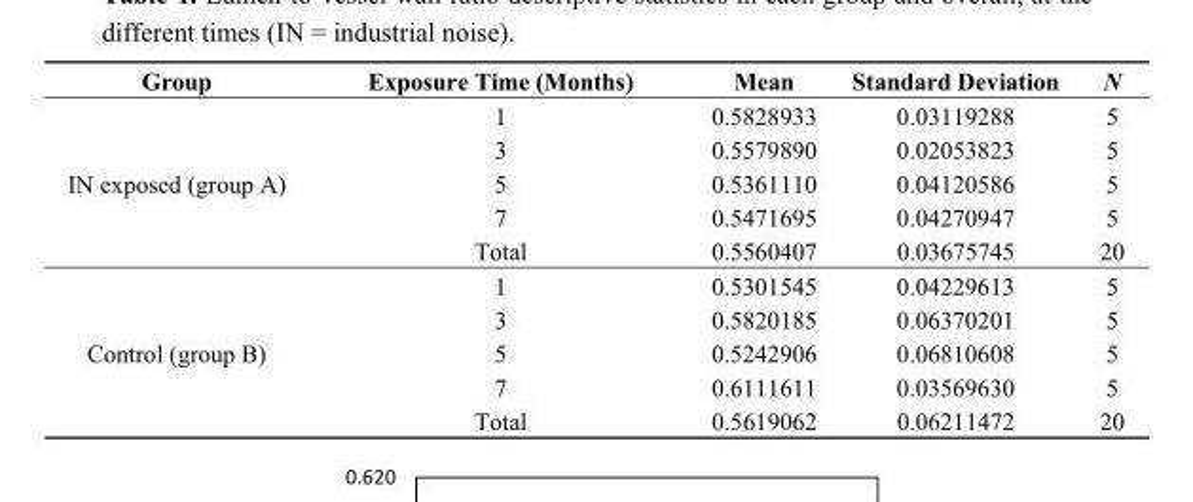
<table><thead><tr><td>Group</td><td>Exposure Time (Months)</td><td>Mean</td><td>Standard Deviation</td><td>N</td></tr></thead><tbody><tr><td rowspan="5">IN exposed (group A)</td><td>1</td><td>0.5828933</td><td>0.03119288</td><td>5</td></tr><tr><td>3</td><td>0.5579890</td><td>0.02053823</td><td>5</td></tr><tr><td>5</td><td>0.5361110</td><td>0.04120586</td><td>5</td></tr><tr><td>7</td><td>0.5471695</td><td>0.04270947</td><td>5</td></tr><tr><td>Total</td><td>0.5560407</td><td>0.03675745</td><td>20</td></tr><tr><td rowspan="5">Control (group B)</td><td>1</td><td>0.5301545</td><td>0.04229613</td><td>5</td></tr><tr><td>3</td><td>0.5820185</td><td>0.06370201</td><td>5</td></tr><tr><td>5</td><td>0.5242906</td><td>0.06810608</td><td>5</td></tr><tr><td>7</td><td>0.6111611</td><td>0.03569630</td><td>5</td></tr><tr><td>Total</td><td>0.5619062</td><td>0.06211472</td><td>20</td></tr></tbody></table>